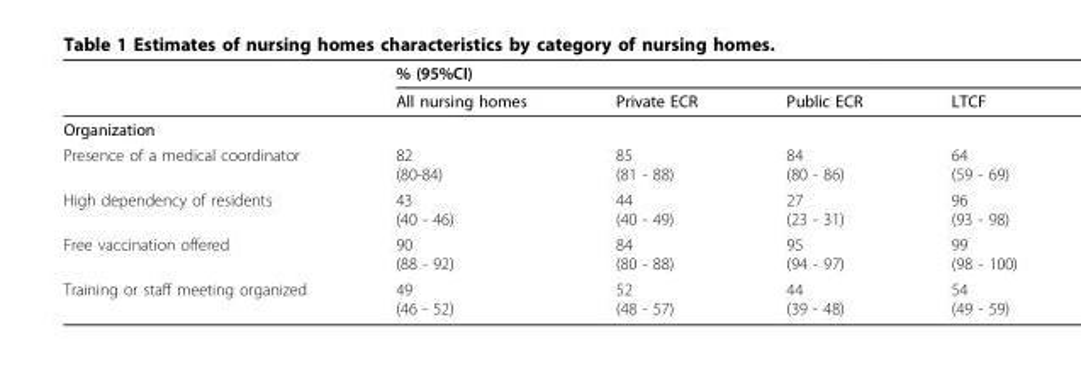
<table><thead><tr><td rowspan="2"></td><td colspan="4">% (95%CI)</td></tr><tr><td>All nursing homes</td><td>Private ECR</td><td>Public ECR</td><td>LTCF</td></tr></thead><tbody><tr><td colspan="5">Organization</td></tr><tr><td>Presence of a medical coordinator</td><td>82 (80-84)</td><td>85 (81 - 88)</td><td>84 (80 - 86)</td><td>64 (59 - 69)</td></tr><tr><td>High dependency of residents</td><td>43 (40 - 46)</td><td>44 (40 - 49)</td><td>27 (23 - 31)</td><td>96 (93 - 98)</td></tr><tr><td>Free vaccination offered</td><td>90 (88 - 92)</td><td>84 (80 - 88)</td><td>95 (94 - 97)</td><td>99 (98 - 100)</td></tr><tr><td>Training or staff meeting organized</td><td>49 (46 - 52)</td><td>52 (48 - 57)</td><td>44 (39 - 48)</td><td>54 (49 - 59)</td></tr></tbody></table>